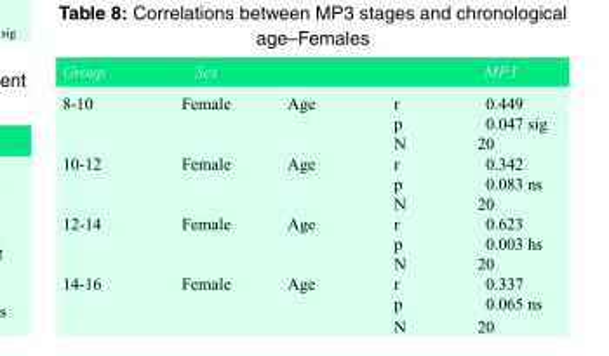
<table><tbody><tr><td>Group</td><td>Sex</td><td></td><td></td><td>MP3</td></tr><tr><td rowspan="3">8-10</td><td>Female</td><td>Age</td><td>r</td><td>0.449</td></tr><tr><td></td><td></td><td>p</td><td>0.047 sig</td></tr><tr><td></td><td></td><td>N</td><td>20</td></tr><tr><td rowspan="3">10-12</td><td>Female</td><td>Age</td><td>r</td><td>0.342</td></tr><tr><td></td><td></td><td>p</td><td>0.083 ns</td></tr><tr><td></td><td></td><td>N</td><td>20</td></tr><tr><td rowspan="3">12-14</td><td>Female</td><td>Age</td><td>r</td><td>0.623</td></tr><tr><td></td><td></td><td>p</td><td>0.003 hs</td></tr><tr><td></td><td></td><td>N</td><td>20</td></tr><tr><td>14-16</td><td>Female</td><td>Age</td><td>r</td><td>0.337</td></tr></tbody></table>